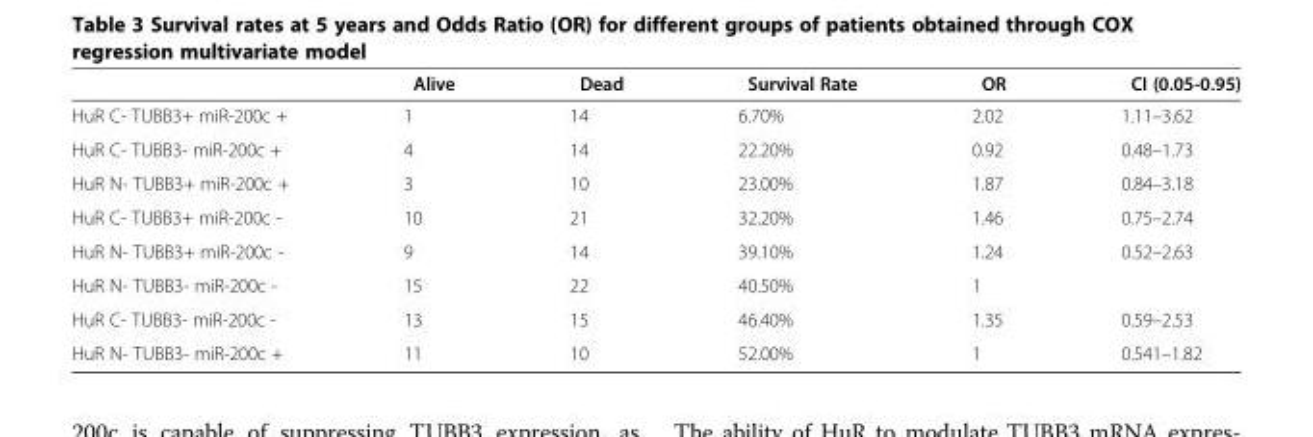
<table><thead><tr><td></td><td>Alive</td><td>Dead</td><td>Survival Rate</td><td>OR</td><td>CI (0.05-0.95)</td></tr></thead><tbody><tr><td>HuR C- TUBB3+ miR-200c +</td><td>1</td><td>14</td><td>6.70%</td><td>2.02</td><td>1.11–3.62</td></tr><tr><td>HuR C- TUBB3- miR-200c +</td><td>4</td><td>14</td><td>22.20%</td><td>0.92</td><td>0.48–1.73</td></tr><tr><td>HuR N- TUBB3+ miR-200c +</td><td>3</td><td>10</td><td>23.00%</td><td>1.87</td><td>0.84–3.18</td></tr><tr><td>HuR C- TUBB3+ miR-200c -</td><td>10</td><td>21</td><td>32.20%</td><td>1.46</td><td>0.75–2.74</td></tr><tr><td>HuR N- TUBB3+ miR-200c -</td><td>9</td><td>14</td><td>39.10%</td><td>1.24</td><td>0.52–2.63</td></tr><tr><td>HuR N- TUBB3- miR-200c -</td><td>15</td><td>22</td><td>40.50%</td><td>1</td><td></td></tr><tr><td>HuR C- TUBB3- miR-200c -</td><td>13</td><td>15</td><td>46.40%</td><td>1.35</td><td>0.59–2.53</td></tr><tr><td>HuR N- TUBB3- miR-200c +</td><td>11</td><td>10</td><td>52.00%</td><td>1</td><td>0.541–1.82</td></tr></tbody></table>